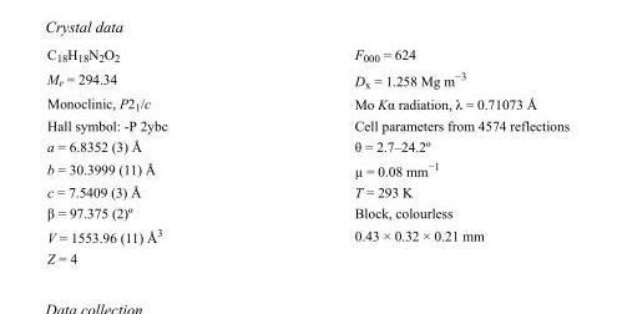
<table><tbody><tr><td>C<sub>18</sub>H<sub>18</sub>N<sub>2</sub>O<sub>2</sub></td><td>F000 = 624</td></tr><tr><td>M<sub>r</sub> = 294.34</td><td>D<sub>x</sub> = 1.258 Mg m<sup>−3</sup></td></tr><tr><td>Monoclinic, P2<sub>1</sub>/c</td><td>Mo Kα radiation, λ = 0.71073 Å</td></tr><tr><td>Hall symbol: -P 2ybc</td><td>Cell parameters from 4574 reflections</td></tr><tr><td>a = 6.8352 (3) Å</td><td>θ = 2.7–24.2º</td></tr><tr><td>b = 30.3999 (11) Å</td><td>µ = 0.08 mm<sup>−1</sup></td></tr><tr><td>c = 7.5409 (3) Å</td><td>T = 293 K</td></tr><tr><td>β = 97.375 (2)º</td><td>Block, colourless</td></tr><tr><td>V = 1553.96 (11) Å<sup>3</sup></td><td>0.43 × 0.32 × 0.21 mm</td></tr><tr><td>Z = 4</td><td></td></tr></tbody></table>